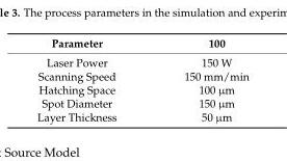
<table><thead><tr><td>Parameter</td><td>100</td></tr></thead><tbody><tr><td>Laser Power</td><td>150 W</td></tr><tr><td>Scanning Speed</td><td>150 mm/min</td></tr><tr><td>Hatching Space</td><td>100 µm</td></tr><tr><td>Spot Diameter</td><td>150 µm</td></tr><tr><td>Layer Thickness</td><td>50 µm</td></tr></tbody></table>